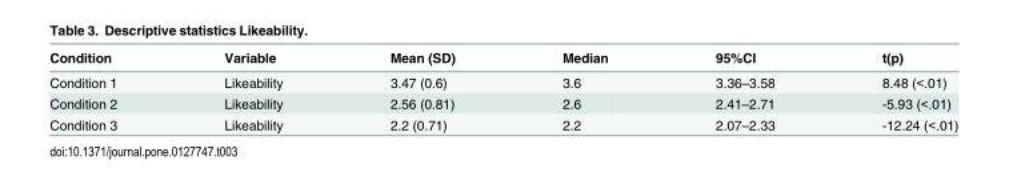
<table><thead><tr><td>Condition</td><td>Variable</td><td>Mean (SD)</td><td>Median</td><td>95%CI</td><td>t(p)</td></tr></thead><tbody><tr><td>Condition 1</td><td>Likeability</td><td>3.47 (0.6)</td><td>3.6</td><td>3.36–3.58</td><td>8.48 (&lt;.01)</td></tr><tr><td>Condition 2</td><td>Likeability</td><td>2.56 (0.81)</td><td>2.6</td><td>2.41–2.71</td><td>-5.93 (&lt;.01)</td></tr><tr><td>Condition 3</td><td>Likeability</td><td>2.2 (0.71)</td><td>2.2</td><td>2.07–2.33</td><td>-12.24 (&lt;.01)</td></tr></tbody></table>